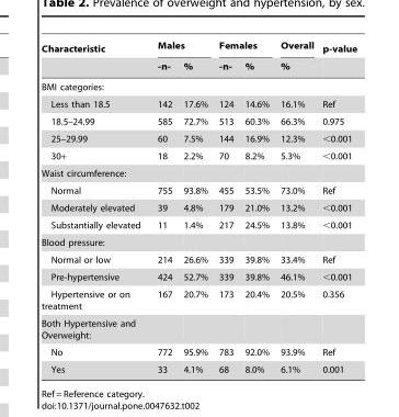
<table><thead><tr><td rowspan="2">Characteristic</td><td colspan="2">Males</td><td colspan="2">Females</td><td rowspan="2">Overall %</td><td rowspan="2">p-value</td></tr><tr><td>-n-</td><td>%</td><td>-n-</td><td>%</td></tr></thead><tbody><tr><td colspan="7">BMI categories:</td></tr><tr><td>Less than 18.5</td><td>142</td><td>17.6%</td><td>124</td><td>14.6%</td><td>16.1%</td><td>Ref</td></tr><tr><td>18.5–24.99</td><td>585</td><td>72.7%</td><td>513</td><td>60.3%</td><td>66.3%</td><td>0.975</td></tr><tr><td>25–29.99</td><td>60</td><td>7.5%</td><td>144</td><td>16.9%</td><td>12.3%</td><td>&lt;0.001</td></tr><tr><td>30+</td><td>18</td><td>2.2%</td><td>70</td><td>8.2%</td><td>5.3%</td><td>&lt;0.001</td></tr><tr><td colspan="7">Waist circumference:</td></tr><tr><td>Normal</td><td>755</td><td>93.8%</td><td>455</td><td>53.5%</td><td>73.0%</td><td>Ref</td></tr><tr><td>Moderately elevated</td><td>39</td><td>4.8%</td><td>179</td><td>21.0%</td><td>13.2%</td><td>&lt;0.001</td></tr><tr><td>Substantially elevated</td><td>11</td><td>1.4%</td><td>217</td><td>24.5%</td><td>13.8%</td><td>&lt;0.001</td></tr><tr><td colspan="7">Blood pressure:</td></tr><tr><td>Normal or low</td><td>214</td><td>26.6%</td><td>339</td><td>39.8%</td><td>33.4%</td><td>Ref</td></tr><tr><td>Pre-hypertensive</td><td>424</td><td>52.7%</td><td>339</td><td>39.8%</td><td>46.1%</td><td>&lt;0.001</td></tr><tr><td>Hypertensive or on treatment</td><td>167</td><td>20.7%</td><td>173</td><td>20.4%</td><td>20.5%</td><td>0.356</td></tr><tr><td colspan="7">Both Hypertensive and Overweight:</td></tr><tr><td>No</td><td>772</td><td>95.9%</td><td>783</td><td>92.0%</td><td>93.9%</td><td>Ref</td></tr><tr><td>Yes</td><td>33</td><td>4.1%</td><td>68</td><td>8.0%</td><td>6.1%</td><td>0.001</td></tr></tbody></table>